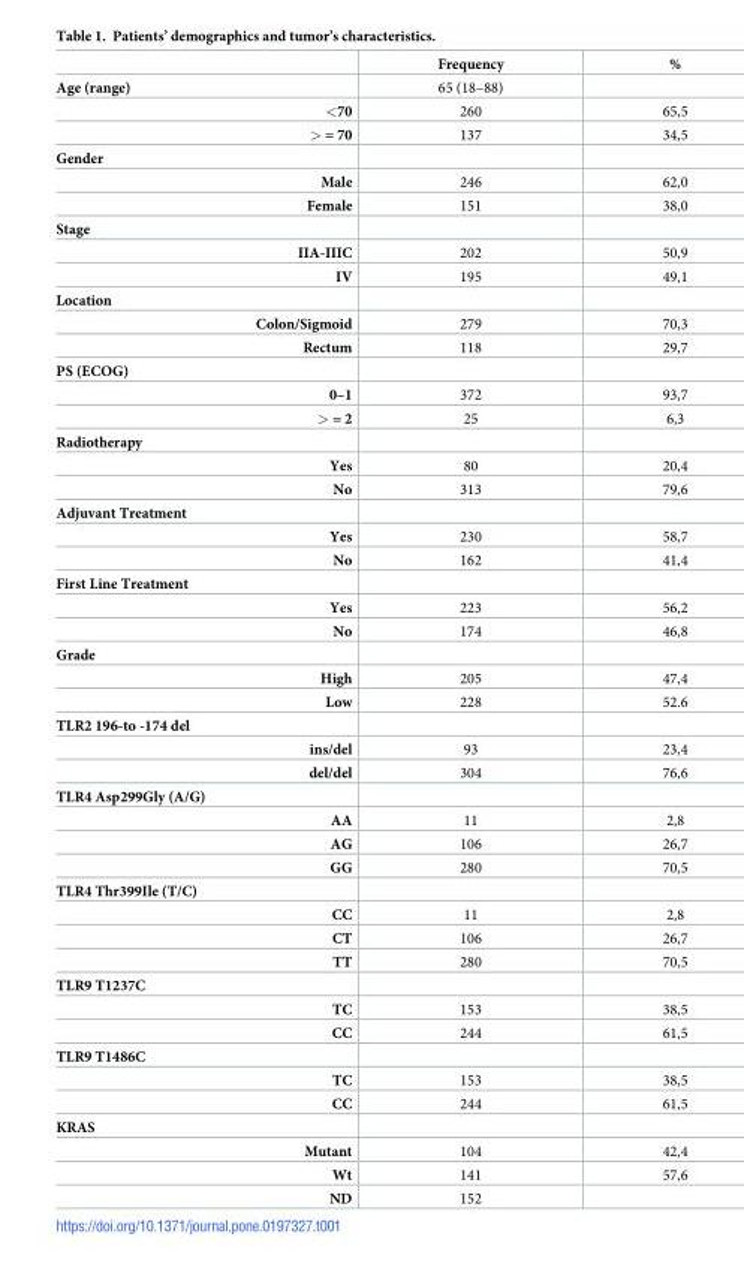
<table><thead><tr><td></td><td>Frequency</td><td>%</td></tr></thead><tbody><tr><td>Age (range)</td><td>65 (18–88)</td><td></td></tr><tr><td>&lt;70</td><td>260</td><td>65,5</td></tr><tr><td>&gt; = 70</td><td>137</td><td>34,5</td></tr><tr><td colspan="3">Gender</td></tr><tr><td>Male</td><td>246</td><td>62,0</td></tr><tr><td>Female</td><td>151</td><td>38,0</td></tr><tr><td colspan="3">Stage</td></tr><tr><td>IIA-IIIC</td><td>202</td><td>50,9</td></tr><tr><td>IV</td><td>195</td><td>49,1</td></tr><tr><td colspan="3">Location</td></tr><tr><td>Colon/Sigmoid</td><td>279</td><td>70,3</td></tr><tr><td>Rectum</td><td>118</td><td>29,7</td></tr><tr><td colspan="3">PS (ECOG)</td></tr><tr><td>0–1</td><td>372</td><td>93,7</td></tr><tr><td>&gt; = 2</td><td>25</td><td>6,3</td></tr><tr><td colspan="3">Radiotherapy</td></tr><tr><td>Yes</td><td>80</td><td>20,4</td></tr><tr><td>No</td><td>313</td><td>79,6</td></tr><tr><td colspan="3">Adjuvant Treatment</td></tr><tr><td>Yes</td><td>230</td><td>58,7</td></tr><tr><td>No</td><td>162</td><td>41,4</td></tr><tr><td colspan="3">First Line Treatment</td></tr><tr><td>Yes</td><td>223</td><td>56,2</td></tr><tr><td>No</td><td>174</td><td>46,8</td></tr><tr><td colspan="3">Grade</td></tr><tr><td>High</td><td>205</td><td>47,4</td></tr><tr><td>Low</td><td>228</td><td>52.6</td></tr><tr><td colspan="3">TLR2 196-to -174 del</td></tr><tr><td>ins/del</td><td>93</td><td>23,4</td></tr><tr><td>del/del</td><td>304</td><td>76,6</td></tr><tr><td colspan="3">TLR4 Asp299Gly (A/G)</td></tr><tr><td>AA</td><td>11</td><td>2,8</td></tr><tr><td>AG</td><td>106</td><td>26,7</td></tr><tr><td>GG</td><td>280</td><td>70,5</td></tr><tr><td colspan="3">TLR4 Thr399Ile (T/C)</td></tr><tr><td>CC</td><td>11</td><td>2,8</td></tr><tr><td>CT</td><td>106</td><td>26,7</td></tr><tr><td>TT</td><td>280</td><td>70,5</td></tr><tr><td colspan="3">TLR9 T1237C</td></tr><tr><td>TC</td><td>153</td><td>38,5</td></tr><tr><td>CC</td><td>244</td><td>61,5</td></tr><tr><td colspan="3">TLR9 T1486C</td></tr><tr><td>TC</td><td>153</td><td>38,5</td></tr><tr><td>CC</td><td>244</td><td>61,5</td></tr><tr><td colspan="3">KRAS</td></tr><tr><td>Mutant</td><td>104</td><td>42,4</td></tr><tr><td>Wt</td><td>141</td><td>57,6</td></tr><tr><td>ND</td><td>152</td><td></td></tr></tbody></table>